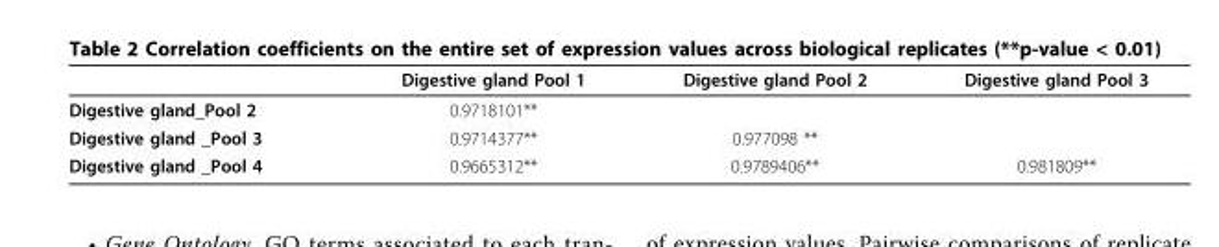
<table><thead><tr><td></td><td>Digestive gland Pool 1</td><td>Digestive gland Pool 2</td><td>Digestive gland Pool 3</td></tr></thead><tbody><tr><td>Digestive gland_Pool 2</td><td>0.9718101**</td><td></td><td></td></tr><tr><td>Digestive gland _Pool 3</td><td>0.9714377**</td><td>0.977098 **</td><td></td></tr><tr><td>Digestive gland _Pool 4</td><td>0.9665312**</td><td>0.9789406**</td><td>0.981809**</td></tr></tbody></table>